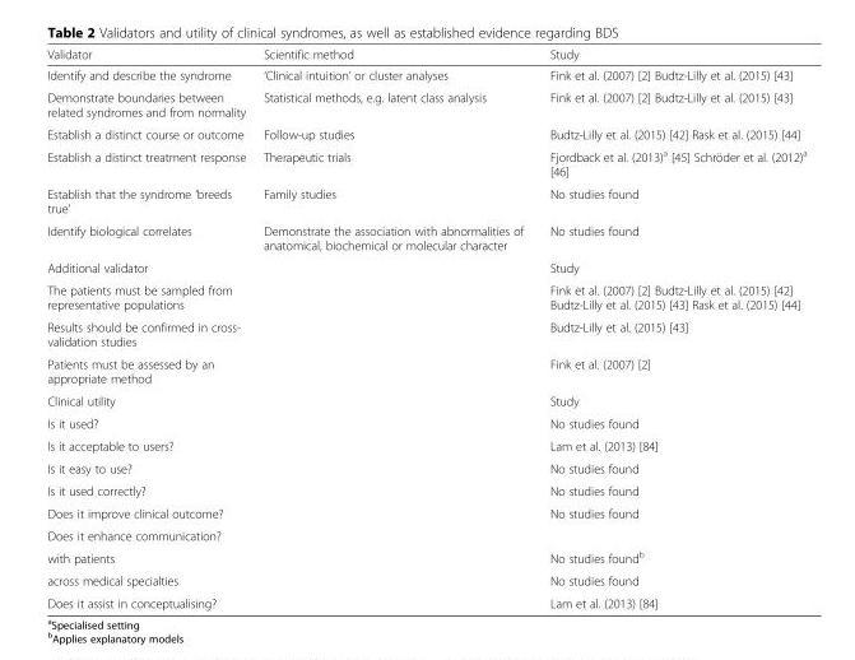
<table><thead><tr><td>Validator</td><td>Scientific method</td><td>Study</td></tr></thead><tbody><tr><td>Identify and describe the syndrome</td><td>‘Clinical intuition’ or cluster analyses</td><td>Fink et al. (2007) [2] Budtz-Lilly et al. (2015) [43]</td></tr><tr><td>Demonstrate boundaries between related syndromes and from normality</td><td>Statistical methods, e.g. latent class analysis</td><td>Fink et al. (2007) [2] Budtz-Lilly et al. (2015) [43]</td></tr><tr><td>Establish a distinct course or outcome</td><td>Follow-up studies</td><td>Budtz-Lilly et al. (2015) [42] Rask et al. (2015) [44]</td></tr><tr><td>Establish a distinct treatment response</td><td>Therapeutic trials</td><td>Fjordback et al. (2013)<sup>a</sup> [45] Schröder et al. (2012)<sup>a</sup> [46]</td></tr><tr><td>Establish that the syndrome ‘breeds true’</td><td>Family studies</td><td>No studies found</td></tr><tr><td>Identify biological correlates</td><td>Demonstrate the association with abnormalities of anatomical, biochemical or molecular character</td><td>No studies found</td></tr><tr><td>Additional validator</td><td></td><td>Study</td></tr><tr><td>The patients must be sampled from representative populations</td><td></td><td>Fink et al. (2007) [2] Budtz-Lilly et al. (2015) [42] Budtz-Lilly et al. (2015) [43] Rask et al. (2015) [44]</td></tr><tr><td>Results should be confirmed in cross- validation studies</td><td></td><td>Budtz-Lilly et al. (2015) [43]</td></tr><tr><td>Patients must be assessed by an appropriate method</td><td></td><td>Fink et al. (2007) [2]</td></tr><tr><td>Clinical utility</td><td></td><td>Study</td></tr><tr><td>Is it used?</td><td></td><td>No studies found</td></tr><tr><td>Is it acceptable to users?</td><td></td><td>Lam et al. (2013) [84]</td></tr><tr><td>Is it easy to use?</td><td></td><td>No studies found</td></tr><tr><td>Is it used correctly?</td><td></td><td>No studies found</td></tr><tr><td>Does it improve clinical outcome?</td><td></td><td>No studies found</td></tr><tr><td colspan="3">Does it enhance communication?</td></tr><tr><td>with patients</td><td></td><td>No studies found<sup>b</sup></td></tr><tr><td>across medical specialties</td><td></td><td>No studies found</td></tr><tr><td>Does it assist in conceptualising?</td><td></td><td>Lam et al. (2013) [84]</td></tr></tbody></table>